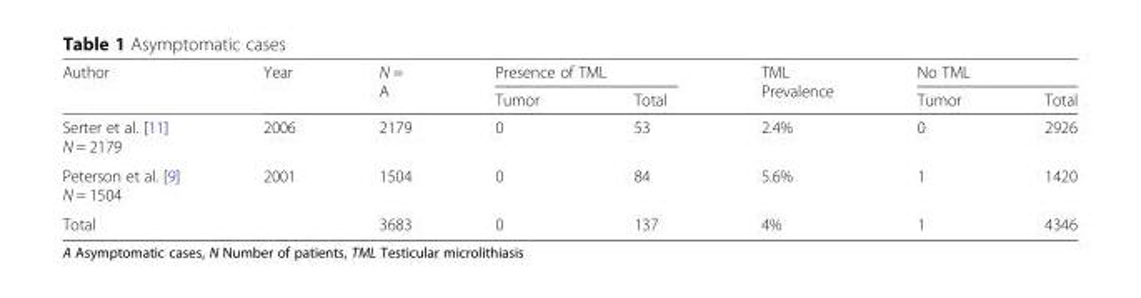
<table><thead><tr><td rowspan="2">Author</td><td rowspan="2">Year</td><td rowspan="2">N = A</td><td colspan="2">Presence of TML</td><td rowspan="2">TML Prevalence</td><td colspan="2">No TML</td></tr><tr><td>Tumor</td><td>Total</td><td>Tumor</td><td>Total</td></tr></thead><tbody><tr><td>Serter et al. [11] N = 2179</td><td>2006</td><td>2179</td><td>0</td><td>53</td><td>2.4%</td><td>0</td><td>2926</td></tr><tr><td>Peterson et al. [9] N = 1504</td><td>2001</td><td>1504</td><td>0</td><td>84</td><td>5.6%</td><td>1</td><td>1420</td></tr><tr><td>Total</td><td></td><td>3683</td><td>0</td><td>137</td><td>4%</td><td>1</td><td>4346</td></tr></tbody></table>